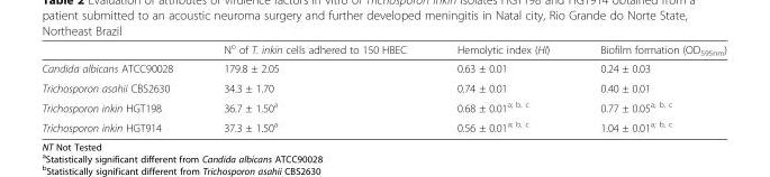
<table><thead><tr><td></td><td>N<sup>o</sup> of T. inkin cells adhered to 150 HBEC</td><td>Hemolytic index (HI)</td><td>Biofilm formation (OD<sub>595nm</sub>)</td></tr></thead><tbody><tr><td>Candida albicans ATCC90028</td><td>179.8 ± 2.05</td><td>0.63 ± 0.01</td><td>0.24 ± 0.03</td></tr><tr><td>Trichosporon asahii CBS2630</td><td>34.3 ± 1.70</td><td>0.74 ± 0.01</td><td>0.40 ± 0.01</td></tr><tr><td>Trichosporon inkin HGT198</td><td>36.7 ± 1.50<sup>a</sup></td><td>0.68 ± 0.01<sup>a; b, c</sup></td><td>0.77 ± 0.05<sup>a; b, c</sup></td></tr><tr><td>Trichosporon inkin HGT914</td><td>37.3 ± 1.50<sup>a</sup></td><td>0.56 ± 0.01<sup>a; b, c</sup></td><td>1.04 ± 0.01<sup>a; b, c</sup></td></tr></tbody></table>